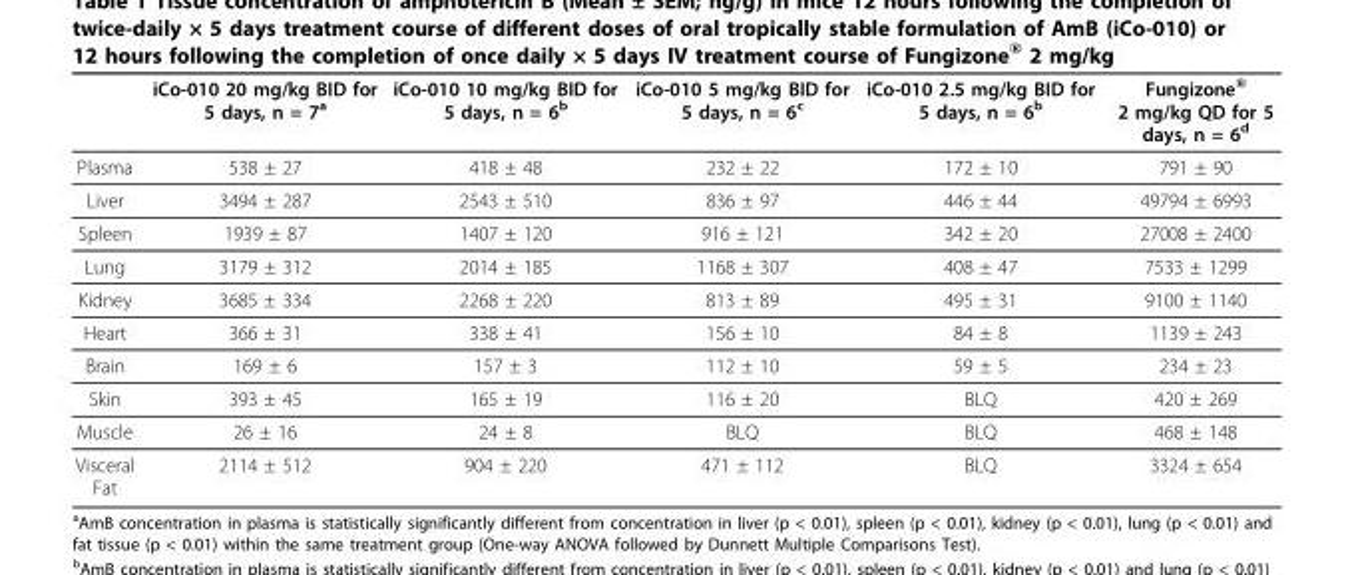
<table><thead><tr><td></td><td>iCo-010 20 mg/kg BID for 5 days, n = 7<sup>a</sup></td><td>iCo-010 10 mg/kg BID for 5 days, n = 6<sup>b</sup></td><td>iCo-010 5 mg/kg BID for 5 days, n = 6<sup>c</sup></td><td>iCo-010 2.5 mg/kg BID for 5 days, n = 6<sup>b</sup></td><td>Fungizone<sup>®</sup> 2 mg/kg QD for 5 days, n = 6<sup>d</sup></td></tr></thead><tbody><tr><td>Plasma</td><td>538 ± 27</td><td>418 ± 48</td><td>232 ± 22</td><td>172 ± 10</td><td>791 ± 90</td></tr><tr><td>Liver</td><td>3494 ± 287</td><td>2543 ± 510</td><td>836 ± 97</td><td>446 ± 44</td><td>49794 ± 6993</td></tr><tr><td>Spleen</td><td>1939 ± 87</td><td>1407 ± 120</td><td>916 ± 121</td><td>342 ± 20</td><td>27008 ± 2400</td></tr><tr><td>Lung</td><td>3179 ± 312</td><td>2014 ± 185</td><td>1168 ± 307</td><td>408 ± 47</td><td>7533 ± 1299</td></tr><tr><td>Kidney</td><td>3685 ± 334</td><td>2268 ± 220</td><td>813 ± 89</td><td>495 ± 31</td><td>9100 ± 1140</td></tr><tr><td>Heart</td><td>366 ± 31</td><td>338 ± 41</td><td>156 ± 10</td><td>84 ± 8</td><td>1139 ± 243</td></tr><tr><td>Brain</td><td>169 ± 6</td><td>157 ± 3</td><td>112 ± 10</td><td>59 ± 5</td><td>234 ± 23</td></tr><tr><td>Skin</td><td>393 ± 45</td><td>165 ± 19</td><td>116 ± 20</td><td>BLQ</td><td>420 ± 269</td></tr><tr><td>Muscle</td><td>26 ± 16</td><td>24 ± 8</td><td>BLQ</td><td>BLQ</td><td>468 ± 148</td></tr><tr><td>Visceral Fat</td><td>2114 ± 512</td><td>904 ± 220</td><td>471 ± 112</td><td>BLQ</td><td>3324 ± 654</td></tr></tbody></table>